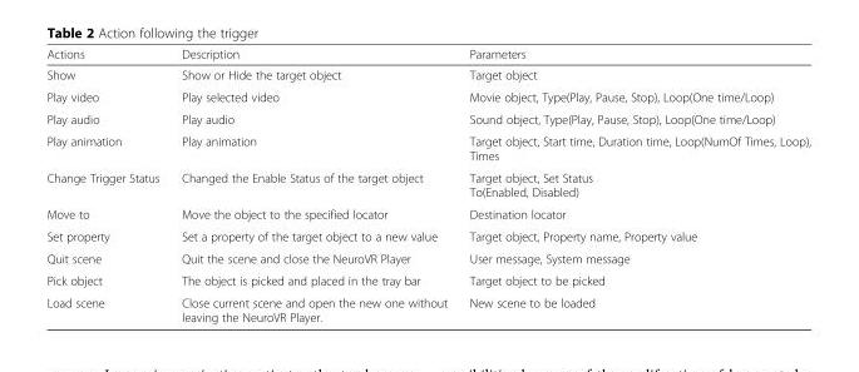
<table><thead><tr><td>Actions</td><td>Description</td><td>Parameters</td></tr></thead><tbody><tr><td>Show</td><td>Show or Hide the target object</td><td>Target object</td></tr><tr><td>Play video</td><td>Play selected video</td><td>Movie object, Type(Play, Pause, Stop), Loop(One time/Loop)</td></tr><tr><td>Play audio</td><td>Play audio</td><td>Sound object, Type(Play, Pause, Stop), Loop(One time/Loop)</td></tr><tr><td>Play animation</td><td>Play animation</td><td>Target object, Start time, Duration time, Loop(NumOf Times, Loop), Times</td></tr><tr><td>Change Trigger Status</td><td>Changed the Enable Status of the target object</td><td>Target object, Set Status To(Enabled, Disabled)</td></tr><tr><td>Move to</td><td>Move the object to the specified locator</td><td>Destination locator</td></tr><tr><td>Set property</td><td>Set a property of the target object to a new value</td><td>Target object, Property name, Property value</td></tr><tr><td>Quit scene</td><td>Quit the scene and close the NeuroVR Player</td><td>User message, System message</td></tr><tr><td>Pick object</td><td>The object is picked and placed in the tray bar</td><td>Target object to be picked</td></tr><tr><td>Load scene</td><td>Close current scene and open the new one without leaving the NeuroVR Player.</td><td>New scene to be loaded</td></tr></tbody></table>